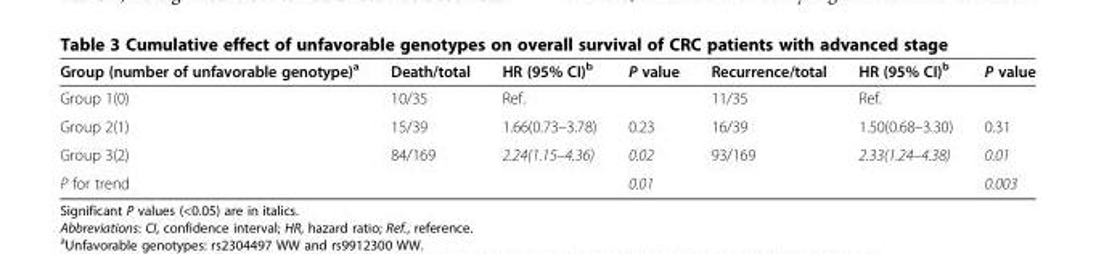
<table><thead><tr><td>Group (number of unfavorable genotype)<sup>a</sup></td><td>Death/total</td><td>HR (95% CI)<sup>b</sup></td><td>P value</td><td>Recurrence/total</td><td>HR (95% CI)<sup>b</sup></td><td>P value</td></tr></thead><tbody><tr><td>Group 1(0)</td><td>10/35</td><td>Ref.</td><td></td><td>11/35</td><td>Ref.</td><td></td></tr><tr><td>Group 2(1)</td><td>15/39</td><td>1.66(0.73–3.78)</td><td>0.23</td><td>16/39</td><td>1.50(0.68–3.30)</td><td>0.31</td></tr><tr><td>Group 3(2)</td><td>84/169</td><td>2.24(1.15–4.36)</td><td>0.02</td><td>93/169</td><td>2.33(1.24–4.38)</td><td>0.01</td></tr><tr><td>P for trend</td><td></td><td></td><td>0.01</td><td></td><td></td><td>0.003</td></tr></tbody></table>